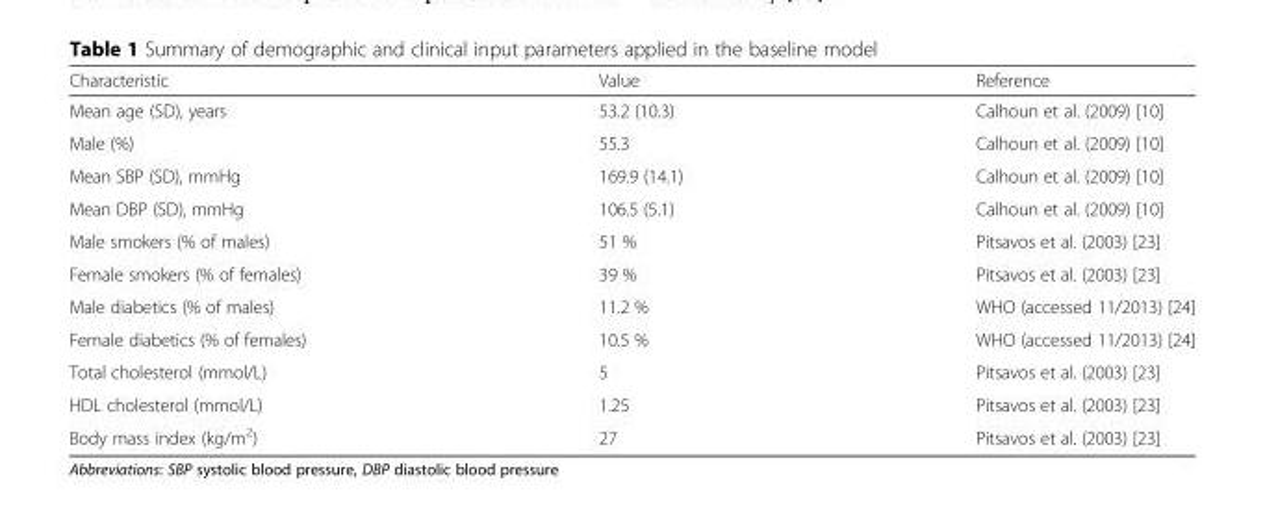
<table><thead><tr><td>Characteristic</td><td>Value</td><td>Reference</td></tr></thead><tbody><tr><td>Mean age (SD), years</td><td>53.2 (10.3)</td><td>Calhoun et al. (2009) [10]</td></tr><tr><td>Male (%)</td><td>55.3</td><td>Calhoun et al. (2009) [10]</td></tr><tr><td>Mean SBP (SD), mmHg</td><td>169.9 (14.1)</td><td>Calhoun et al. (2009) [10]</td></tr><tr><td>Mean DBP (SD), mmHg</td><td>106.5 (5.1)</td><td>Calhoun et al. (2009) [10]</td></tr><tr><td>Male smokers (% of males)</td><td>51 %</td><td>Pitsavos et al. (2003) [23]</td></tr><tr><td>Female smokers (% of females)</td><td>39 %</td><td>Pitsavos et al. (2003) [23]</td></tr><tr><td>Male diabetics (% of males)</td><td>11.2 %</td><td>WHO (accessed 11/2013) [24]</td></tr><tr><td>Female diabetics (% of females)</td><td>10.5 %</td><td>WHO (accessed 11/2013) [24]</td></tr><tr><td>Total cholesterol (mmol/L)</td><td>5</td><td>Pitsavos et al. (2003) [23]</td></tr><tr><td>HDL cholesterol (mmol/L)</td><td>1.25</td><td>Pitsavos et al. (2003) [23]</td></tr><tr><td>Body mass index (kg/m<sup>2</sup>)</td><td>27</td><td>Pitsavos et al. (2003) [23]</td></tr></tbody></table>